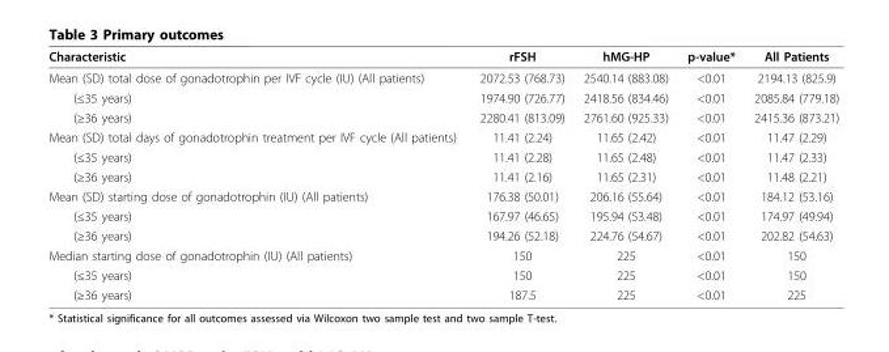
<table><thead><tr><td>Characteristic</td><td>rFSH</td><td>hMG-HP</td><td>p-value*</td><td>All Patients</td></tr></thead><tbody><tr><td>Mean (SD) total dose of gonadotrophin per IVF cycle (IU) (All patients)</td><td>2072.53 (768.73)</td><td>2540.14 (883.08)</td><td>&lt;0.01</td><td>2194.13 (825.9)</td></tr><tr><td>(≤35 years)</td><td>1974.90 (726.77)</td><td>2418.56 (834.46)</td><td>&lt;0.01</td><td>2085.84 (779.18)</td></tr><tr><td>(≥36 years)</td><td>2280.41 (813.09)</td><td>2761.60 (925.33)</td><td>&lt;0.01</td><td>2415.36 (873.21)</td></tr><tr><td>Mean (SD) total days of gonadotrophin treatment per IVF cycle (All patients)</td><td>11.41 (2.24)</td><td>11.65 (2.42)</td><td>&lt;0.01</td><td>11.47 (2.29)</td></tr><tr><td>(≤35 years)</td><td>11.41 (2.28)</td><td>11.65 (2.48)</td><td>&lt;0.01</td><td>11.47 (2.33)</td></tr><tr><td>(≥36 years)</td><td>11.41 (2.16)</td><td>11.65 (2.31)</td><td>&lt;0.01</td><td>11.48 (2.21)</td></tr><tr><td>Mean (SD) starting dose of gonadotrophin (IU) (All patients)</td><td>176.38 (50.01)</td><td>206.16 (55.64)</td><td>&lt;0.01</td><td>184.12 (53.16)</td></tr><tr><td>(≤35 years)</td><td>167.97 (46.65)</td><td>195.94 (53.48)</td><td>&lt;0.01</td><td>174.97 (49.94)</td></tr><tr><td>(≥36 years)</td><td>194.26 (52.18)</td><td>224.76 (54.67)</td><td>&lt;0.01</td><td>202.82 (54.63)</td></tr><tr><td>Median starting dose of gonadotrophin (IU) (All patients)</td><td>150</td><td>225</td><td>&lt;0.01</td><td>150</td></tr><tr><td>(≤35 years)</td><td>150</td><td>225</td><td>&lt;0.01</td><td>150</td></tr><tr><td>(≥36 years)</td><td>187.5</td><td>225</td><td>&lt;0.01</td><td>225</td></tr></tbody></table>